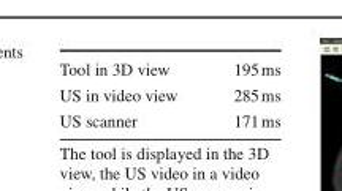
<table><tbody><tr><td>Tool in 3D view</td><td>195ms</td></tr><tr><td>US in video view</td><td>285ms</td></tr><tr><td>US scanner</td><td>171ms</td></tr></tbody></table>